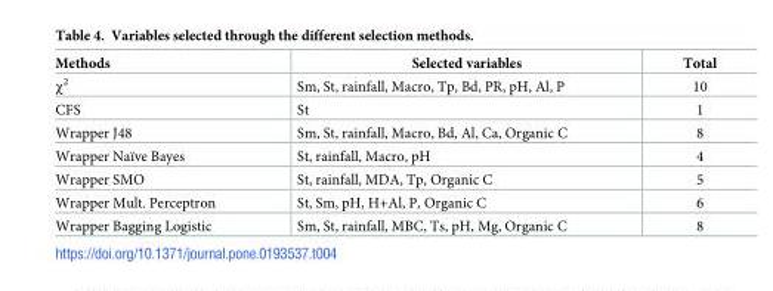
<table><thead><tr><td>Methods</td><td>Selected variables</td><td>Total</td></tr></thead><tbody><tr><td>χ<sup>2</sup></td><td>Sm, St, rainfall, Macro, Tp, Bd, PR, pH, Al, P</td><td>10</td></tr><tr><td>CFS</td><td>St</td><td>1</td></tr><tr><td>Wrapper J48</td><td>Sm, St, rainfall, Macro, Bd, Al, Ca, Organic C</td><td>8</td></tr><tr><td>Wrapper Naïve Bayes</td><td>St, rainfall, Macro, pH</td><td>4</td></tr><tr><td>Wrapper SMO</td><td>St, rainfall, MDA, Tp, Organic C</td><td>5</td></tr><tr><td>Wrapper Mult. Perceptron</td><td>St, Sm, pH, H+Al, P, Organic C</td><td>6</td></tr><tr><td>Wrapper Bagging Logistic</td><td>Sm, St, rainfall, MBC, Ts, pH, Mg, Organic C</td><td>8</td></tr></tbody></table>